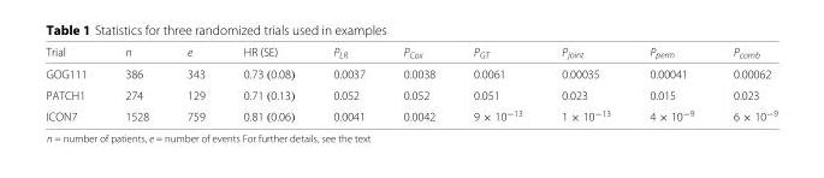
<table><thead><tr><td>Trial</td><td>n</td><td>e</td><td>HR (SE)</td><td>P<sub>LR</sub></td><td>P<sub>Cox</sub></td><td>P<sub>GT</sub></td><td>P<sub>joint</sub></td><td>P<sub>perm</sub></td><td>P<sub>comb</sub></td></tr></thead><tbody><tr><td>GOG111</td><td>386</td><td>343</td><td>0.73 (0.08)</td><td>0.0037</td><td>0.0038</td><td>0.0061</td><td>0.00035</td><td>0.00041</td><td>0.00062</td></tr><tr><td>PATCH1</td><td>274</td><td>129</td><td>0.71 (0.13)</td><td>0.052</td><td>0.052</td><td>0.051</td><td>0.023</td><td>0.015</td><td>0.023</td></tr><tr><td>ICON7</td><td>1528</td><td>759</td><td>0.81 (0.06)</td><td>0.0041</td><td>0.0042</td><td>9 × 10<sup>−13</sup></td><td>1 × 10<sup>−13</sup></td><td>4 × 10<sup>−9</sup></td><td>6 × 10<sup>−9</sup></td></tr></tbody></table>